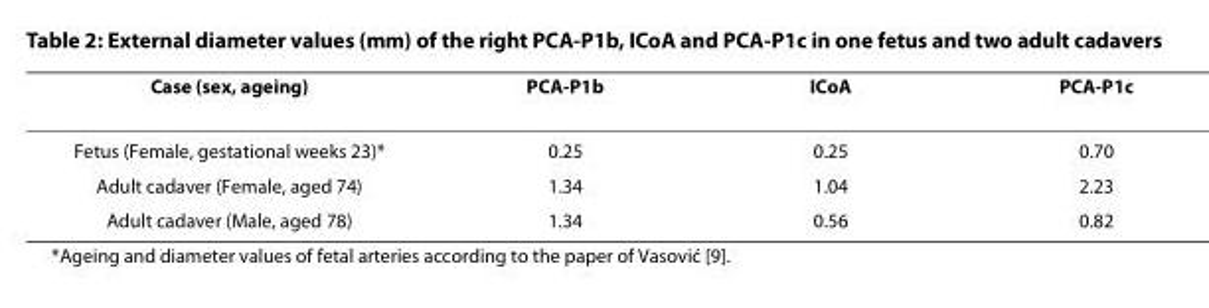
<table><thead><tr><td>Case (sex, ageing)</td><td>PCA-P1b</td><td>ICoA</td><td>PCA-P1c</td></tr></thead><tbody><tr><td>Fetus (Female, gestational weeks 23)*</td><td>0.25</td><td>0.25</td><td>0.70</td></tr><tr><td>Adult cadaver (Female, aged 74)</td><td>1.34</td><td>1.04</td><td>2.23</td></tr><tr><td>Adult cadaver (Male, aged 78)</td><td>1.34</td><td>0.56</td><td>0.82</td></tr></tbody></table>